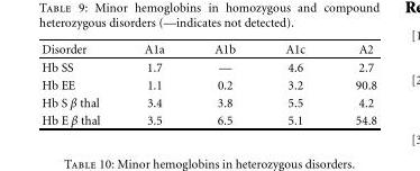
<table><thead><tr><td>Disorder</td><td>A1a</td><td>A1b</td><td>A1c</td><td>A2</td></tr></thead><tbody><tr><td>Hb SS</td><td>1.7</td><td>—</td><td>4.6</td><td>2.7</td></tr><tr><td>Hb EE</td><td>1.1</td><td>0.2</td><td>3.2</td><td>90.8</td></tr><tr><td>Hb S β thal</td><td>3.4</td><td>3.8</td><td>5.5</td><td>4.2</td></tr><tr><td>Hb E β thal</td><td>3.5</td><td>6.5</td><td>5.1</td><td>54.8</td></tr></tbody></table>